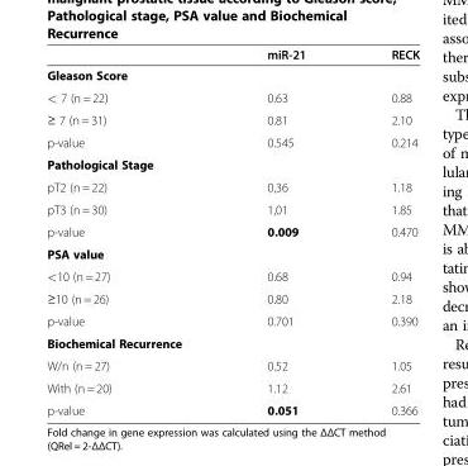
<table><thead><tr><td></td><td>miR-21</td><td>RECK</td></tr></thead><tbody><tr><td colspan="3">Gleason Score</td></tr><tr><td>&lt; 7 (n = 22)</td><td>0.63</td><td>0.88</td></tr><tr><td>≥ 7 (n = 31)</td><td>0.81</td><td>2.10</td></tr><tr><td>p-value</td><td>0.545</td><td>0.214</td></tr><tr><td colspan="3">Pathological Stage</td></tr><tr><td>pT2 (n = 22)</td><td>0,36</td><td>1.18</td></tr><tr><td>pT3 (n = 30)</td><td>1,01</td><td>1.85</td></tr><tr><td>p-value</td><td>0.009</td><td>0.470</td></tr><tr><td colspan="3">PSA value</td></tr><tr><td>&lt;10 (n = 27)</td><td>0.68</td><td>0.94</td></tr><tr><td>≥10 (n = 26)</td><td>0.80</td><td>2.18</td></tr><tr><td>p-value</td><td>0.701</td><td>0.390</td></tr><tr><td colspan="3">Biochemical Recurrence</td></tr><tr><td>W/n (n = 27)</td><td>0.52</td><td>1.05</td></tr><tr><td>With (n = 20)</td><td>1.12</td><td>2.61</td></tr><tr><td>p-value</td><td>0.051</td><td>0.366</td></tr></tbody></table>